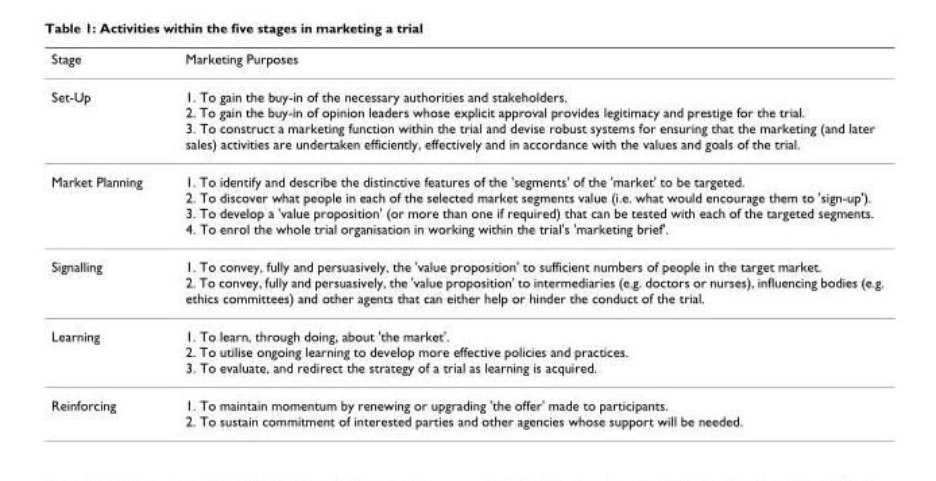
<table><thead><tr><td>Stage</td><td>Marketing Purposes</td></tr></thead><tbody><tr><td>Set-Up</td><td>1. To gain the buy-in of the necessary authorities and stakeholders. 2. To gain the buy-in of opinion leaders whose explicit approval provides legitimacy and prestige for the trial. 3. To construct a marketing function within the trial and devise robust systems for ensuring that the marketing (and later sales) activities are undertaken efficiently, effectively and in accordance with the values and goals of the trial.</td></tr><tr><td>Market Planning</td><td>1. To identify and describe the distinctive features of the &#x27;segments&#x27; of the &#x27;market&#x27; to be targeted. 2. To discover what people in each of the selected market segments value (i.e. what would encourage them to &#x27;sign-up&#x27;). 3. To develop a &#x27;value proposition&#x27; (or more than one if required) that can be tested with each of the targeted segments. 4. To enrol the whole trial organisation in working within the trial&#x27;s &#x27;marketing brief&#x27;.</td></tr><tr><td>Signalling</td><td>1. To convey, fully and persuasively, the &#x27;value proposition&#x27; to sufficient numbers of people in the target market. 2. To convey, fully and persuasively, the &#x27;value proposition&#x27; to intermediaries (e.g. doctors or nurses), influencing bodies (e.g. ethics committees) and other agents that can either help or hinder the conduct of the trial.</td></tr><tr><td>Learning</td><td>1. To learn, through doing, about &#x27;the market&#x27;. 2. To utilise ongoing learning to develop more effective policies and practices. 3. To evaluate, and redirect the strategy of a trial as learning is acquired.</td></tr><tr><td>Reinforcing</td><td>1. To maintain momentum by renewing or upgrading &#x27;the offer&#x27; made to participants. 2. To sustain commitment of interested parties and other agencies whose support will be needed.</td></tr></tbody></table>